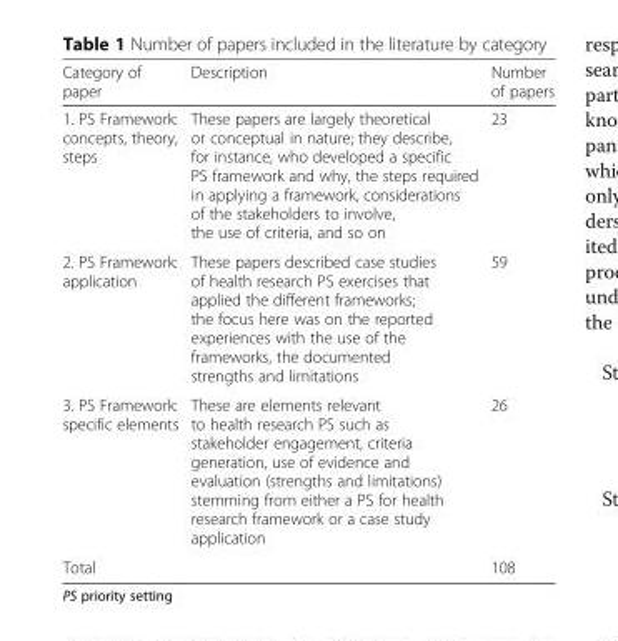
<table><thead><tr><td>Category of paper</td><td>Description</td><td>Number of papers</td></tr></thead><tbody><tr><td>1. PS Framework: concepts, theory, steps</td><td>These papers are largely theoretical or conceptual in nature; they describe, for instance, who developed a specific PS framework and why, the steps required in applying a framework, considerations of the stakeholders to involve, the use of criteria, and so on</td><td>23</td></tr><tr><td>2. PS Framework: application</td><td>These papers described case studies of health research PS exercises that applied the different frameworks; the focus here was on the reported experiences with the use of the frameworks, the documented strengths and limitations</td><td>59</td></tr><tr><td>3. PS Framework: specific elements</td><td>These are elements relevant to health research PS such as stakeholder engagement, criteria generation, use of evidence and evaluation (strengths and limitations) stemming from either a PS for health research framework or a case study application</td><td>26</td></tr><tr><td>Total</td><td></td><td>108</td></tr></tbody></table>